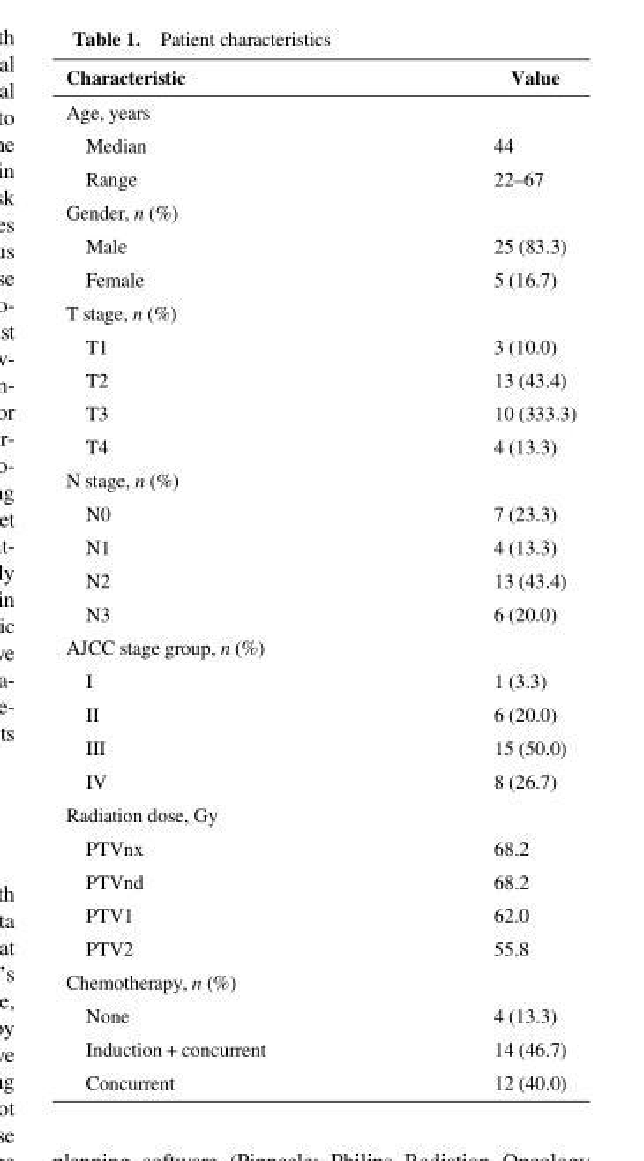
<table><thead><tr><td>Characteristic</td><td>Value</td></tr></thead><tbody><tr><td colspan="2">Age, years</td></tr><tr><td>Median</td><td>44</td></tr><tr><td>Range</td><td>22–67</td></tr><tr><td colspan="2">Gender, n (%)</td></tr><tr><td>Male</td><td>25 (83.3)</td></tr><tr><td>Female</td><td>5 (16.7)</td></tr><tr><td colspan="2">T stage, n (%)</td></tr><tr><td>T1</td><td>3 (10.0)</td></tr><tr><td>T2</td><td>13 (43.4)</td></tr><tr><td>T3</td><td>10 (333.3)</td></tr><tr><td>T4</td><td>4 (13.3)</td></tr><tr><td colspan="2">N stage, n (%)</td></tr><tr><td>N0</td><td>7 (23.3)</td></tr><tr><td>N1</td><td>4 (13.3)</td></tr><tr><td>N2</td><td>13 (43.4)</td></tr><tr><td>N3</td><td>6 (20.0)</td></tr><tr><td colspan="2">AJCC stage group, n (%)</td></tr><tr><td>I</td><td>1 (3.3)</td></tr><tr><td>II</td><td>6 (20.0)</td></tr><tr><td>III</td><td>15 (50.0)</td></tr><tr><td>IV</td><td>8 (26.7)</td></tr><tr><td colspan="2">Radiation dose, Gy</td></tr><tr><td>PTVnx</td><td>68.2</td></tr><tr><td>PTVnd</td><td>68.2</td></tr><tr><td>PTV1</td><td>62.0</td></tr><tr><td>PTV2</td><td>55.8</td></tr><tr><td colspan="2">Chemotherapy, n (%)</td></tr><tr><td>None</td><td>4 (13.3)</td></tr><tr><td>Induction + concurrent</td><td>14 (46.7)</td></tr><tr><td>Concurrent</td><td>12 (40.0)</td></tr></tbody></table>